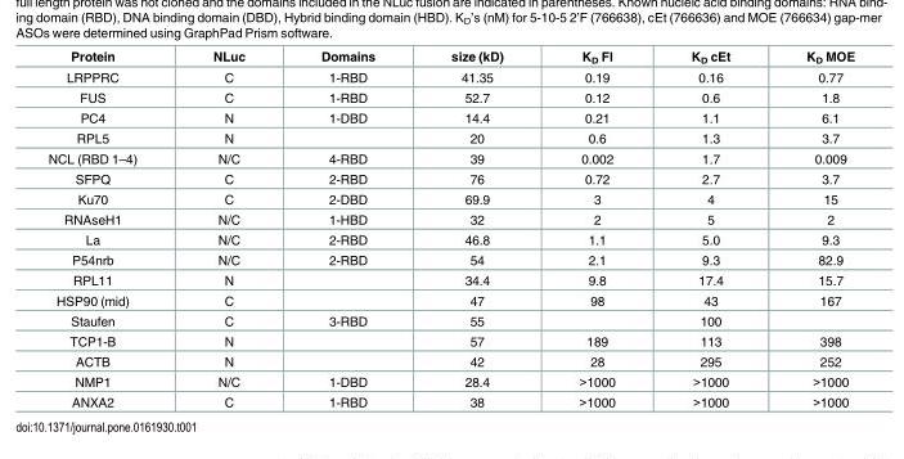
<table><thead><tr><td>Protein</td><td>NLuc</td><td>Domains</td><td>size (kD)</td><td>K<sub>D</sub> Fl</td><td>K<sub>D</sub> cEt</td><td>K<sub>D</sub> MOE</td></tr></thead><tbody><tr><td>LRPPRC</td><td>C</td><td>1-RBD</td><td>41.35</td><td>0.19</td><td>0.16</td><td>0.77</td></tr><tr><td>FUS</td><td>C</td><td>1-RBD</td><td>52.7</td><td>0.12</td><td>0.6</td><td>1.8</td></tr><tr><td>PC4</td><td>N</td><td>1-DBD</td><td>14.4</td><td>0.21</td><td>1.1</td><td>6.1</td></tr><tr><td>RPL5</td><td>N</td><td></td><td>20</td><td>0.6</td><td>1.3</td><td>3.7</td></tr><tr><td>NCL (RBD 1–4)</td><td>N/C</td><td>4-RBD</td><td>39</td><td>0.002</td><td>1.7</td><td>0.009</td></tr><tr><td>SFPQ</td><td>C</td><td>2-RBD</td><td>76</td><td>0.72</td><td>2.7</td><td>3.7</td></tr><tr><td>Ku70</td><td>C</td><td>2-DBD</td><td>69.9</td><td>3</td><td>4</td><td>15</td></tr><tr><td>RNAseH1</td><td>N/C</td><td>1-HBD</td><td>32</td><td>2</td><td>5</td><td>2</td></tr><tr><td>La</td><td>N/C</td><td>2-RBD</td><td>46.8</td><td>1.1</td><td>5.0</td><td>9.3</td></tr><tr><td>P54nrb</td><td>N/C</td><td>2-RBD</td><td>54</td><td>2.1</td><td>9.3</td><td>82.9</td></tr><tr><td>RPL11</td><td>N</td><td></td><td>34.4</td><td>9.8</td><td>17.4</td><td>15.7</td></tr><tr><td>HSP90 (mid)</td><td>C</td><td></td><td>47</td><td>98</td><td>43</td><td>167</td></tr><tr><td>Staufen</td><td>C</td><td>3-RBD</td><td>55</td><td></td><td>100</td><td></td></tr><tr><td>TCP1-B</td><td>N</td><td></td><td>57</td><td>189</td><td>113</td><td>398</td></tr><tr><td>ACTB</td><td>N</td><td></td><td>42</td><td>28</td><td>295</td><td>252</td></tr><tr><td>NMP1</td><td>N/C</td><td>1-DBD</td><td>28.4</td><td>&gt;1000</td><td>&gt;1000</td><td>&gt;1000</td></tr><tr><td>ANXA2</td><td>C</td><td>1-RBD</td><td>38</td><td>&gt;1000</td><td>&gt;1000</td><td>&gt;1000</td></tr></tbody></table>